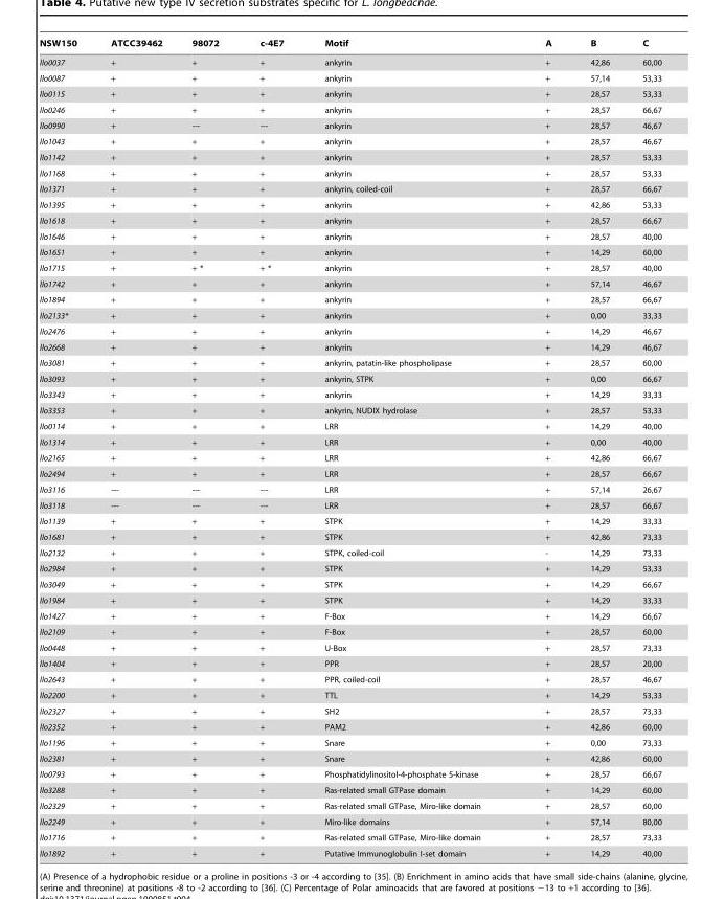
<table><thead><tr><td>NSW150</td><td>ATCC39462</td><td>98072</td><td>c-4E7</td><td>Motif</td><td>A</td><td>B</td><td>C</td></tr></thead><tbody><tr><td>llo0037</td><td>+</td><td>+</td><td>+</td><td>ankyrin</td><td>+</td><td>42,86</td><td>60,00</td></tr><tr><td>llo0087</td><td>+</td><td>+</td><td>+</td><td>ankyrin</td><td>+</td><td>57,14</td><td>53,33</td></tr><tr><td>llo0115</td><td>+</td><td>+</td><td>+</td><td>ankyrin</td><td>+</td><td>28,57</td><td>53,33</td></tr><tr><td>llo0246</td><td>+</td><td>+</td><td>+</td><td>ankyrin</td><td>+</td><td>28,57</td><td>66,67</td></tr><tr><td>llo0990</td><td>+</td><td>---</td><td>---</td><td>ankyrin</td><td>+</td><td>28,57</td><td>46,67</td></tr><tr><td>llo1043</td><td>+</td><td>+</td><td>+</td><td>ankyrin</td><td>+</td><td>28,57</td><td>46,67</td></tr><tr><td>llo1142</td><td>+</td><td>+</td><td>+</td><td>ankyrin</td><td>+</td><td>28,57</td><td>53,33</td></tr><tr><td>llo1168</td><td>+</td><td>+</td><td>+</td><td>ankyrin</td><td>+</td><td>28,57</td><td>53,33</td></tr><tr><td>llo1371</td><td>+</td><td>+</td><td>+</td><td>ankyrin, coiled-coil</td><td>+</td><td>28,57</td><td>66,67</td></tr><tr><td>llo1395</td><td>+</td><td>+</td><td>+</td><td>ankyrin</td><td>+</td><td>42,86</td><td>53,33</td></tr><tr><td>llo1618</td><td>+</td><td>+</td><td>+</td><td>ankyrin</td><td>+</td><td>28,57</td><td>66,67</td></tr><tr><td>llo1646</td><td>+</td><td>+</td><td>+</td><td>ankyrin</td><td>+</td><td>28,57</td><td>40,00</td></tr><tr><td>llo1651</td><td>+</td><td>+</td><td>+</td><td>ankyrin</td><td>+</td><td>14,29</td><td>60,00</td></tr><tr><td>llo1715</td><td>+</td><td>+ *</td><td>+ *</td><td>ankyrin</td><td>+</td><td>28,57</td><td>40,00</td></tr><tr><td>llo1742</td><td>+</td><td>+</td><td>+</td><td>ankyrin</td><td>+</td><td>57,14</td><td>46,67</td></tr><tr><td>llo1894</td><td>+</td><td>+</td><td>+</td><td>ankyrin</td><td>+</td><td>28,57</td><td>66,67</td></tr><tr><td>llo2133*</td><td>+</td><td>+</td><td>+</td><td>ankyrin</td><td>+</td><td>0,00</td><td>33,33</td></tr><tr><td>llo2476</td><td>+</td><td>+</td><td>+</td><td>ankyrin</td><td>+</td><td>14,29</td><td>46,67</td></tr><tr><td>llo2668</td><td>+</td><td>+</td><td>+</td><td>ankyrin</td><td>+</td><td>14,29</td><td>46,67</td></tr><tr><td>llo3081</td><td>+</td><td>+</td><td>+</td><td>ankyrin, patatin-like phospholipase</td><td>+</td><td>28,57</td><td>60,00</td></tr><tr><td>llo3093</td><td>+</td><td>+</td><td>+</td><td>ankyrin, STPK</td><td>+</td><td>0,00</td><td>66,67</td></tr><tr><td>llo3343</td><td>+</td><td>+</td><td>+</td><td>ankyrin</td><td>+</td><td>14,29</td><td>33,33</td></tr><tr><td>llo3353</td><td>+</td><td>+</td><td>+</td><td>ankyrin, NUDIX hydrolase</td><td>+</td><td>28,57</td><td>53,33</td></tr><tr><td>llo0114</td><td>+</td><td>+</td><td>+</td><td>LRR</td><td>+</td><td>14,29</td><td>40,00</td></tr><tr><td>llo1314</td><td>+</td><td>+</td><td>+</td><td>LRR</td><td>+</td><td>0,00</td><td>40,00</td></tr><tr><td>llo2165</td><td>+</td><td>+</td><td>+</td><td>LRR</td><td>+</td><td>42,86</td><td>66,67</td></tr><tr><td>llo2494</td><td>+</td><td>+</td><td>+</td><td>LRR</td><td>+</td><td>28,57</td><td>66,67</td></tr><tr><td>llo3116</td><td>---</td><td>---</td><td>---</td><td>LRR</td><td>+</td><td>57,14</td><td>26,67</td></tr><tr><td>llo3118</td><td>---</td><td>---</td><td>---</td><td>LRR</td><td>+</td><td>28,57</td><td>66,67</td></tr><tr><td>llo1139</td><td>+</td><td>+</td><td>+</td><td>STPK</td><td>+</td><td>14,29</td><td>33,33</td></tr><tr><td>llo1681</td><td>+</td><td>+</td><td>+</td><td>STPK</td><td>+</td><td>42,86</td><td>73,33</td></tr><tr><td>llo2132</td><td>+</td><td>+</td><td>+</td><td>STPK, coiled-coil</td><td>-</td><td>14,29</td><td>73,33</td></tr><tr><td>llo2984</td><td>+</td><td>+</td><td>+</td><td>STPK</td><td>+</td><td>14,29</td><td>53,33</td></tr><tr><td>llo3049</td><td>+</td><td>+</td><td>+</td><td>STPK</td><td>+</td><td>14,29</td><td>66,67</td></tr><tr><td>llo1984</td><td>+</td><td>+</td><td>+</td><td>STPK</td><td>+</td><td>14,29</td><td>33,33</td></tr><tr><td>llo1427</td><td>+</td><td>+</td><td>+</td><td>F-Box</td><td>+</td><td>14,29</td><td>66,67</td></tr><tr><td>llo2109</td><td>+</td><td>+</td><td>+</td><td>F-Box</td><td>+</td><td>28,57</td><td>60,00</td></tr><tr><td>llo0448</td><td>+</td><td>+</td><td>+</td><td>U-Box</td><td>+</td><td>28,57</td><td>73,33</td></tr><tr><td>llo1404</td><td>+</td><td>+</td><td>+</td><td>PPR</td><td>+</td><td>28,57</td><td>20,00</td></tr><tr><td>llo2643</td><td>+</td><td>+</td><td>+</td><td>PPR, coiled-coil</td><td>+</td><td>28,57</td><td>46,67</td></tr><tr><td>llo2200</td><td>+</td><td>+</td><td>+</td><td>TTL</td><td>+</td><td>14,29</td><td>53,33</td></tr><tr><td>llo2327</td><td>+</td><td>+</td><td>+</td><td>SH2</td><td>+</td><td>28,57</td><td>73,33</td></tr><tr><td>llo2352</td><td>+</td><td>+</td><td>+</td><td>PAM2</td><td>+</td><td>42,86</td><td>60,00</td></tr><tr><td>llo1196</td><td>+</td><td>+</td><td>+</td><td>Snare</td><td>+</td><td>0,00</td><td>73,33</td></tr><tr><td>llo2381</td><td>+</td><td>+</td><td>+</td><td>Snare</td><td>+</td><td>42,86</td><td>60,00</td></tr><tr><td>llo0793</td><td>+</td><td>+</td><td>+</td><td>Phosphatidylinositol-4-phosphate 5-kinase</td><td>+</td><td>28,57</td><td>66,67</td></tr><tr><td>llo3288</td><td>+</td><td>+</td><td>+</td><td>Ras-related small GTPase domain</td><td>+</td><td>14,29</td><td>60,00</td></tr><tr><td>llo2329</td><td>+</td><td>+</td><td>+</td><td>Ras-related small GTPase, Miro-like domain</td><td>+</td><td>28,57</td><td>60,00</td></tr><tr><td>llo2249</td><td>+</td><td>+</td><td>+</td><td>Miro-like domains</td><td>+</td><td>57,14</td><td>80,00</td></tr><tr><td>llo1716</td><td>+</td><td>+</td><td>+</td><td>Ras-related small GTPase, Miro-like domain</td><td>+</td><td>28,57</td><td>73,33</td></tr><tr><td>llo1892</td><td>+</td><td>+</td><td>+</td><td>Putative Immunoglobulin I-set domain</td><td>+</td><td>14,29</td><td>40,00</td></tr></tbody></table>